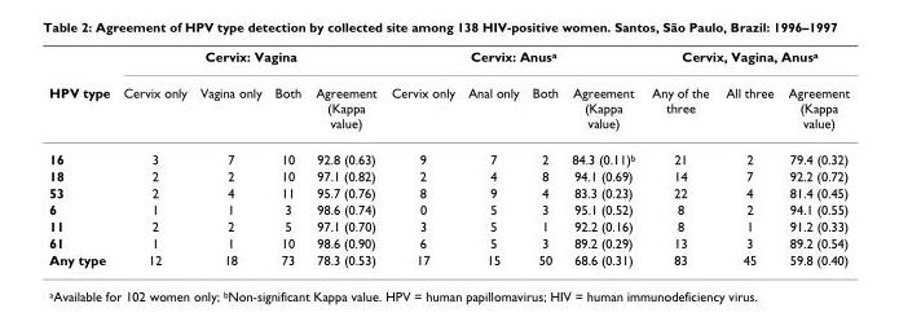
<table><thead><tr><td rowspan="2">HPV type</td><td colspan="4">Cervix: Vagina</td><td colspan="4">Cervix: Anus<sup>a</sup></td><td colspan="3">Cervix, Vagina, Anus<sup>a</sup></td></tr><tr><td>Cervix only</td><td>Vagina only</td><td>Both</td><td>Agreement (Kappa value)</td><td>Cervix only</td><td>Anal only</td><td>Both</td><td>Agreement (Kappa value)</td><td>Any of the three</td><td>All three</td><td>Agreement (Kappa value)</td></tr></thead><tbody><tr><td>16</td><td>3</td><td>7</td><td>10</td><td>92.8 (0.63)</td><td>9</td><td>7</td><td>2</td><td>84.3 (0.11)<sup>b</sup></td><td>21</td><td>2</td><td>79.4 (0.32)</td></tr><tr><td>18</td><td>2</td><td>2</td><td>10</td><td>97.1 (0.82)</td><td>2</td><td>4</td><td>8</td><td>94.1 (0.69)</td><td>14</td><td>7</td><td>92.2 (0.72)</td></tr><tr><td>53</td><td>2</td><td>4</td><td>11</td><td>95.7 (0.76)</td><td>8</td><td>9</td><td>4</td><td>83.3 (0.23)</td><td>22</td><td>4</td><td>81.4 (0.45)</td></tr><tr><td>6</td><td>1</td><td>1</td><td>3</td><td>98.6 (0.74)</td><td>0</td><td>5</td><td>3</td><td>95.1 (0.52)</td><td>8</td><td>2</td><td>94.1 (0.55)</td></tr><tr><td>11</td><td>2</td><td>2</td><td>5</td><td>97.1 (0.70)</td><td>3</td><td>5</td><td>1</td><td>92.2 (0.16)</td><td>8</td><td>1</td><td>91.2 (0.33)</td></tr><tr><td>61</td><td>1</td><td>1</td><td>10</td><td>98.6 (0.90)</td><td>6</td><td>5</td><td>3</td><td>89.2 (0.29)</td><td>13</td><td>3</td><td>89.2 (0.54)</td></tr><tr><td>Any type</td><td>12</td><td>18</td><td>73</td><td>78.3 (0.53)</td><td>17</td><td>15</td><td>50</td><td>68.6 (0.31)</td><td>83</td><td>45</td><td>59.8 (0.40)</td></tr></tbody></table>